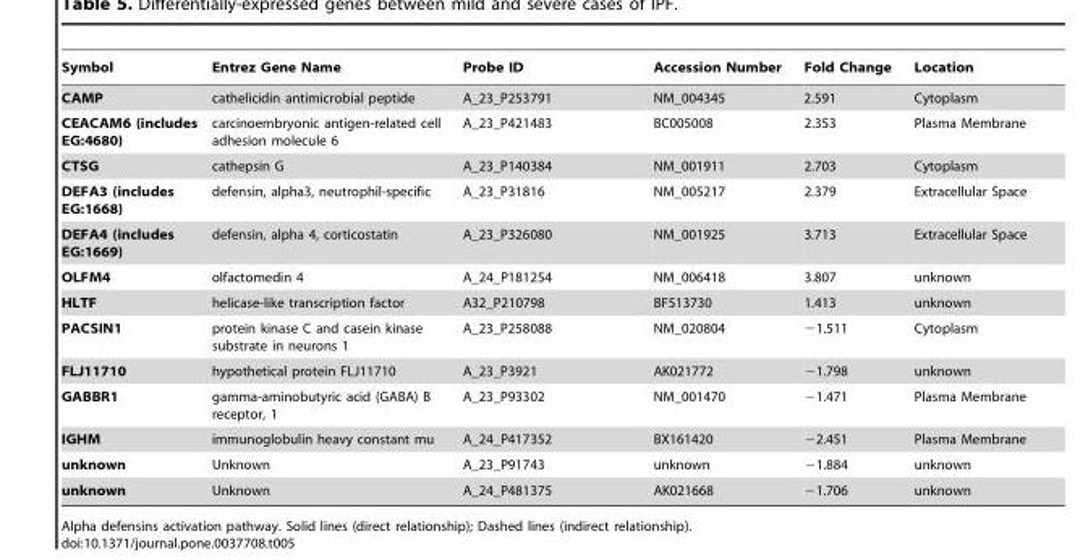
<table><thead><tr><td>Symbol</td><td>Entrez Gene Name</td><td>Probe ID</td><td>Accession Number</td><td>Fold Change</td><td>Location</td></tr></thead><tbody><tr><td>CAMP</td><td>cathelicidin antimicrobial peptide</td><td>A_23_P253791</td><td>NM_004345</td><td>2.591</td><td>Cytoplasm</td></tr><tr><td>CEACAM6 (includes EG:4680)</td><td>carcinoembryonic antigen-related cell adhesion molecule 6</td><td>A_23_P421483</td><td>BC005008</td><td>2.353</td><td>Plasma Membrane</td></tr><tr><td>CTSG</td><td>cathepsin G</td><td>A_23_P140384</td><td>NM_001911</td><td>2.703</td><td>Cytoplasm</td></tr><tr><td>DEFA3 (includes EG:1668)</td><td>defensin, alpha3, neutrophil-specific</td><td>A_23_P31816</td><td>NM_005217</td><td>2.379</td><td>Extracellular Space</td></tr><tr><td>DEFA4 (includes EG:1669)</td><td>defensin, alpha 4, corticostatin</td><td>A_23_P326080</td><td>NM_001925</td><td>3.713</td><td>Extracellular Space</td></tr><tr><td>OLFM4</td><td>olfactomedin 4</td><td>A_24_P181254</td><td>NM_006418</td><td>3.807</td><td>unknown</td></tr><tr><td>HLTF</td><td>helicase-like transcription factor</td><td>A32_P210798</td><td>BF513730</td><td>1.413</td><td>unknown</td></tr><tr><td>PACSIN1</td><td>protein kinase C and casein kinase substrate in neurons 1</td><td>A_23_P258088</td><td>NM_020804</td><td>−1.511</td><td>Cytoplasm</td></tr><tr><td>FLJ11710</td><td>hypothetical protein FLJ11710</td><td>A_23_P3921</td><td>AK021772</td><td>−1.798</td><td>unknown</td></tr><tr><td>GABBR1</td><td>gamma-aminobutyric acid (GABA) B receptor, 1</td><td>A_23_P93302</td><td>NM_001470</td><td>−1.471</td><td>Plasma Membrane</td></tr><tr><td>IGHM</td><td>immunoglobulin heavy constant mu</td><td>A_24_P417352</td><td>BX161420</td><td>−2.451</td><td>Plasma Membrane</td></tr><tr><td>unknown</td><td>Unknown</td><td>A_23_P91743</td><td>unknown</td><td>−1.884</td><td>unknown</td></tr><tr><td>unknown</td><td>Unknown</td><td>A_24_P481375</td><td>AK021668</td><td>−1.706</td><td>unknown</td></tr></tbody></table>